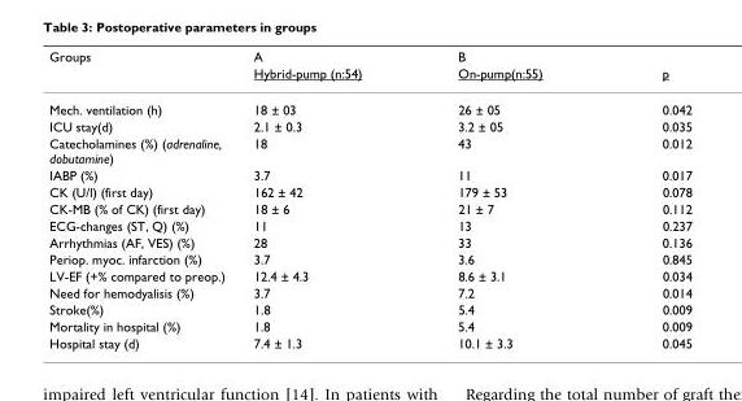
<table><thead><tr><td rowspan="2">Groups</td><td rowspan="2">A Hybrid-pump (n:54)</td><td rowspan="2">B On-pump(n:55)</td><td rowspan="2">p</td></tr><tr></tr></thead><tbody><tr><td>Mech. ventilation (h)</td><td>18 ± 03</td><td>26 ± 05</td><td>0.042</td></tr><tr><td>ICU stay(d)</td><td>2.1 ± 0.3</td><td>3.2 ± 05</td><td>0.035</td></tr><tr><td>Catecholamines (%) (adrenaline, dobutamine)</td><td>18</td><td>43</td><td>0.012</td></tr><tr><td>IABP (%)</td><td>3.7</td><td>11</td><td>0.017</td></tr><tr><td>CK (U/l) (first day)</td><td>162 ± 42</td><td>179 ± 53</td><td>0.078</td></tr><tr><td>CK-MB (% of CK) (first day)</td><td>18 ± 6</td><td>21 ± 7</td><td>0.112</td></tr><tr><td>ECG-changes (ST, Q) (%)</td><td>11</td><td>13</td><td>0.237</td></tr><tr><td>Arrhythmias (AF, VES) (%)</td><td>28</td><td>33</td><td>0.136</td></tr><tr><td>Periop. myoc. infarction (%)</td><td>3.7</td><td>3.6</td><td>0.845</td></tr><tr><td>LV-EF (+% compared to preop.)</td><td>12.4 ± 4.3</td><td>8.6 ± 3.1</td><td>0.034</td></tr><tr><td>Need for hemodyalisis (%)</td><td>3.7</td><td>7.2</td><td>0.014</td></tr><tr><td>Stroke(%)</td><td>1.8</td><td>5.4</td><td>0.009</td></tr><tr><td>Mortality in hospital (%)</td><td>1.8</td><td>5.4</td><td>0.009</td></tr><tr><td>Hospital stay (d)</td><td>7.4 ± 1.3</td><td>10.1 ± 3.3</td><td>0.045</td></tr></tbody></table>